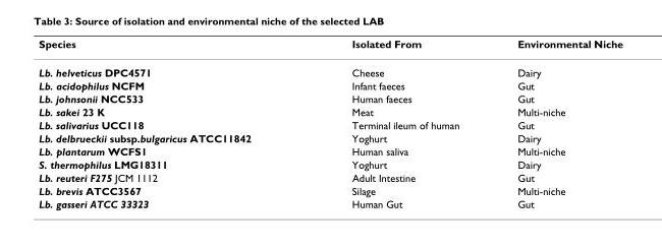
<table><thead><tr><td>Species</td><td>Isolated From</td><td>Environmental Niche</td></tr></thead><tbody><tr><td>Lb. helveticus DPC4571</td><td>Cheese</td><td>Dairy</td></tr><tr><td>Lb. acidophilus NCFM</td><td>Infant faeces</td><td>Gut</td></tr><tr><td>Lb. johnsonii NCC533</td><td>Human faeces</td><td>Gut</td></tr><tr><td>Lb. sakei 23 K</td><td>Meat</td><td>Multi-niche</td></tr><tr><td>Lb. salivarius UCC118</td><td>Terminal ileum of human</td><td>Gut</td></tr><tr><td>Lb. delbrueckii subsp.bulgaricus ATCC11842</td><td>Yoghurt</td><td>Dairy</td></tr><tr><td>Lb. plantarum WCFS1</td><td>Human saliva</td><td>Multi-niche</td></tr><tr><td>S. thermophilus LMG18311</td><td>Yoghurt</td><td>Dairy</td></tr><tr><td>Lb. reuteri F275 JCM 1112</td><td>Adult Intestine</td><td>Gut</td></tr><tr><td>Lb. brevis ATCC3567</td><td>Silage</td><td>Multi-niche</td></tr><tr><td>Lb. gasseri ATCC 33323</td><td>Human Gut</td><td>Gut</td></tr></tbody></table>